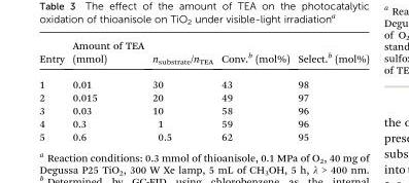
<table><thead><tr><td>Entry</td><td>Amount of TEA (mmol)</td><td>n<sub>substrate</sub>/n<sub>TEA</sub></td><td>Conv.<sup>b</sup> (mol%)</td><td>Select.<sup>b</sup> (mol%)</td></tr></thead><tbody><tr><td>1</td><td>0.01</td><td>30</td><td>43</td><td>98</td></tr><tr><td>2</td><td>0.015</td><td>20</td><td>49</td><td>97</td></tr><tr><td>3</td><td>0.03</td><td>10</td><td>58</td><td>96</td></tr><tr><td>4</td><td>0.3</td><td>1</td><td>59</td><td>96</td></tr><tr><td>5</td><td>0.6</td><td>0.5</td><td>62</td><td>95</td></tr></tbody></table>